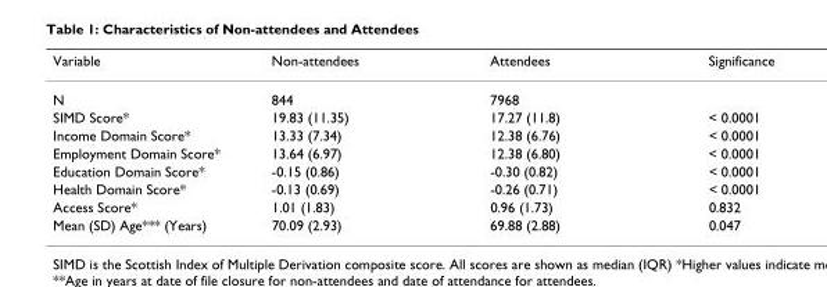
<table><thead><tr><td>Variable</td><td>Non-attendees</td><td>Attendees</td><td>Significance</td></tr></thead><tbody><tr><td>N</td><td>844</td><td>7968</td><td></td></tr><tr><td>SIMD Score*</td><td>19.83 (11.35)</td><td>17.27 (11.8)</td><td>&lt; 0.0001</td></tr><tr><td>Income Domain Score*</td><td>13.33 (7.34)</td><td>12.38 (6.76)</td><td>&lt; 0.0001</td></tr><tr><td>Employment Domain Score*</td><td>13.64 (6.97)</td><td>12.38 (6.80)</td><td>&lt; 0.0001</td></tr><tr><td>Education Domain Score*</td><td>-0.15 (0.86)</td><td>-0.30 (0.82)</td><td>&lt; 0.0001</td></tr><tr><td>Health Domain Score*</td><td>-0.13 (0.69)</td><td>-0.26 (0.71)</td><td>&lt; 0.0001</td></tr><tr><td>Access Score*</td><td>1.01 (1.83)</td><td>0.96 (1.73)</td><td>0.832</td></tr><tr><td>Mean (SD) Age*** (Years)</td><td>70.09 (2.93)</td><td>69.88 (2.88)</td><td>0.047</td></tr></tbody></table>